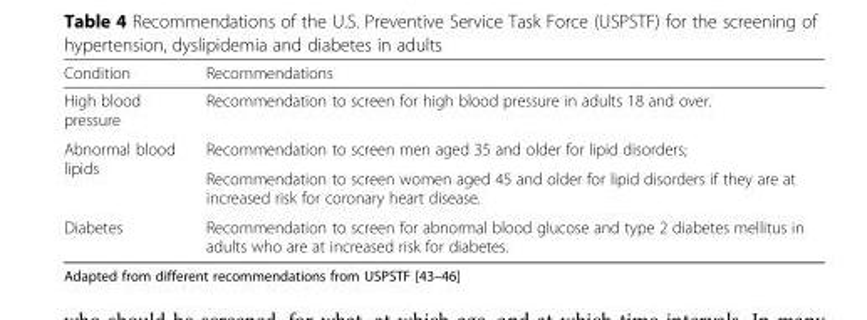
<table><thead><tr><td>Condition</td><td>Recommendations</td></tr></thead><tbody><tr><td>High blood pressure</td><td>Recommendation to screen for high blood pressure in adults 18 and over.</td></tr><tr><td rowspan="2">Abnormal blood lipids</td><td>Recommendation to screen men aged 35 and older for lipid disorders;</td></tr><tr><td>Recommendation to screen women aged 45 and older for lipid disorders if they are at increased risk for coronary heart disease.</td></tr><tr><td>Diabetes</td><td>Recommendation to screen for abnormal blood glucose and type 2 diabetes mellitus in adults who are at increased risk for diabetes.</td></tr></tbody></table>